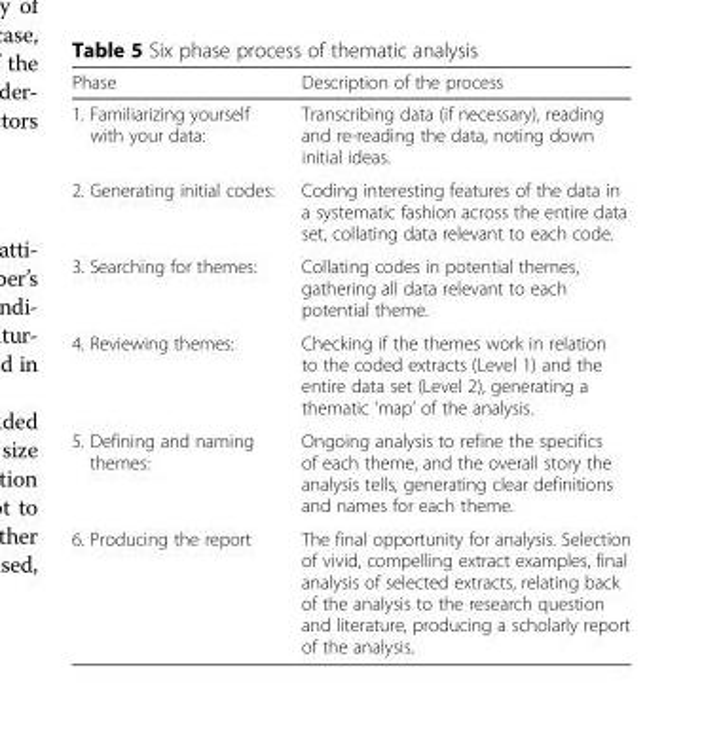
<table><thead><tr><td>Phase</td><td>Description of the process</td></tr></thead><tbody><tr><td>1. Familiarizing yourself with your data:</td><td>Transcribing data (if necessary), reading and re-reading the data, noting down initial ideas.</td></tr><tr><td>2. Generating initial codes:</td><td>Coding interesting features of the data in a systematic fashion across the entire data set, collating data relevant to each code.</td></tr><tr><td>3. Searching for themes:</td><td>Collating codes in potential themes, gathering all data relevant to each potential theme.</td></tr><tr><td>4. Reviewing themes:</td><td>Checking if the themes work in relation to the coded extracts (Level 1) and the entire data set (Level 2), generating a thematic ‘map’ of the analysis.</td></tr><tr><td>5. Defining and naming themes:</td><td>Ongoing analysis to refine the specifics of each theme, and the overall story the analysis tells, generating clear definitions and names for each theme.</td></tr><tr><td>6. Producing the report</td><td>The final opportunity for analysis. Selection of vivid, compelling extract examples, final analysis of selected extracts, relating back of the analysis to the research question and literature, producing a scholarly report of the analysis.</td></tr></tbody></table>